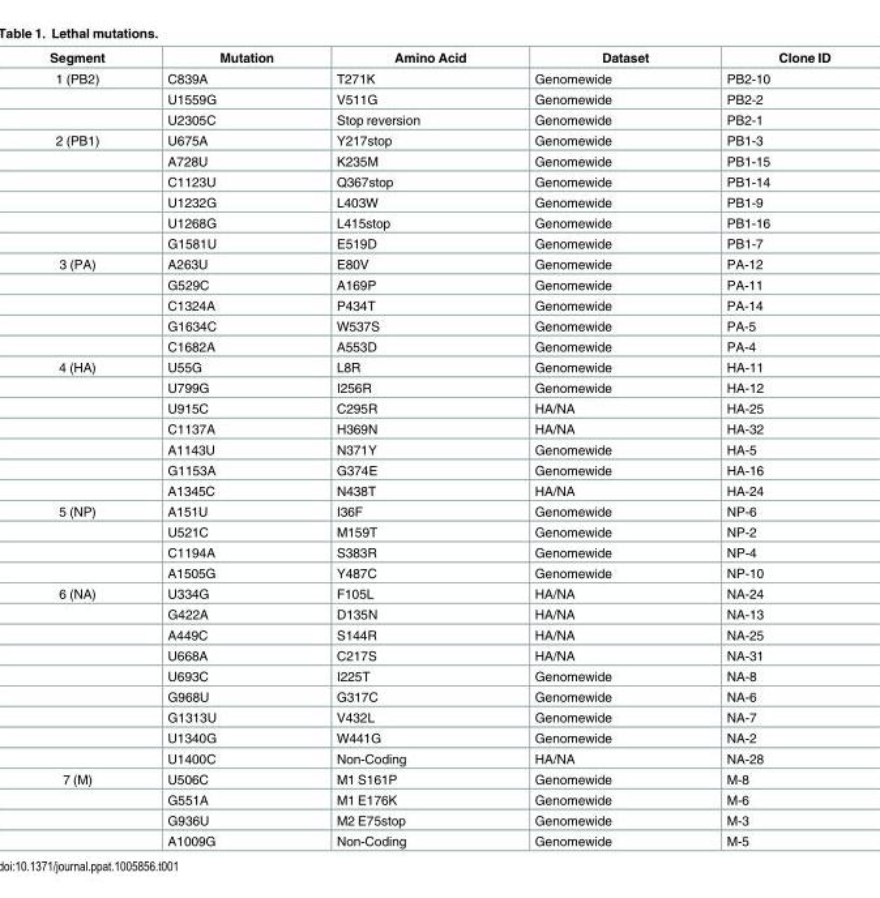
<table><thead><tr><td>Segment</td><td>Mutation</td><td>Amino Acid</td><td>Dataset</td><td>Clone ID</td></tr></thead><tbody><tr><td rowspan="3">1 (PB2)</td><td>C839A</td><td>T271K</td><td>Genomewide</td><td>PB2-10</td></tr><tr><td>U1559G</td><td>V511G</td><td>Genomewide</td><td>PB2-2</td></tr><tr><td>U2305C</td><td>Stop reversion</td><td>Genomewide</td><td>PB2-1</td></tr><tr><td rowspan="6">2 (PB1)</td><td>U675A</td><td>Y217stop</td><td>Genomewide</td><td>PB1-3</td></tr><tr><td>A728U</td><td>K235M</td><td>Genomewide</td><td>PB1-15</td></tr><tr><td>C1123U</td><td>Q367stop</td><td>Genomewide</td><td>PB1-14</td></tr><tr><td>U1232G</td><td>L403W</td><td>Genomewide</td><td>PB1-9</td></tr><tr><td>U1268G</td><td>L415stop</td><td>Genomewide</td><td>PB1-16</td></tr><tr><td>G1581U</td><td>E519D</td><td>Genomewide</td><td>PB1-7</td></tr><tr><td rowspan="5">3 (PA)</td><td>A263U</td><td>E80V</td><td>Genomewide</td><td>PA-12</td></tr><tr><td>G529C</td><td>A169P</td><td>Genomewide</td><td>PA-11</td></tr><tr><td>C1324A</td><td>P434T</td><td>Genomewide</td><td>PA-14</td></tr><tr><td>G1634C</td><td>W537S</td><td>Genomewide</td><td>PA-5</td></tr><tr><td>C1682A</td><td>A553D</td><td>Genomewide</td><td>PA-4</td></tr><tr><td rowspan="7">4 (HA)</td><td>U55G</td><td>L8R</td><td>Genomewide</td><td>HA-11</td></tr><tr><td>U799G</td><td>I256R</td><td>Genomewide</td><td>HA-12</td></tr><tr><td>U915C</td><td>C295R</td><td>HA/NA</td><td>HA-25</td></tr><tr><td>C1137A</td><td>H369N</td><td>HA/NA</td><td>HA-32</td></tr><tr><td>A1143U</td><td>N371Y</td><td>Genomewide</td><td>HA-5</td></tr><tr><td>G1153A</td><td>G374E</td><td>Genomewide</td><td>HA-16</td></tr><tr><td>A1345C</td><td>N438T</td><td>HA/NA</td><td>HA-24</td></tr><tr><td rowspan="4">5 (NP)</td><td>A151U</td><td>I36F</td><td>Genomewide</td><td>NP-6</td></tr><tr><td>U521C</td><td>M159T</td><td>Genomewide</td><td>NP-2</td></tr><tr><td>C1194A</td><td>S383R</td><td>Genomewide</td><td>NP-4</td></tr><tr><td>A1505G</td><td>Y487C</td><td>Genomewide</td><td>NP-10</td></tr><tr><td rowspan="9">6 (NA)</td><td>U334G</td><td>F105L</td><td>HA/NA</td><td>NA-24</td></tr><tr><td>G422A</td><td>D135N</td><td>HA/NA</td><td>NA-13</td></tr><tr><td>A449C</td><td>S144R</td><td>HA/NA</td><td>NA-25</td></tr><tr><td>U668A</td><td>C217S</td><td>HA/NA</td><td>NA-31</td></tr><tr><td>U693C</td><td>I225T</td><td>Genomewide</td><td>NA-8</td></tr><tr><td>G968U</td><td>G317C</td><td>Genomewide</td><td>NA-6</td></tr><tr><td>G1313U</td><td>V432L</td><td>Genomewide</td><td>NA-7</td></tr><tr><td>U1340G</td><td>W441G</td><td>Genomewide</td><td>NA-2</td></tr><tr><td>U1400C</td><td>Non-Coding</td><td>HA/NA</td><td>NA-28</td></tr><tr><td rowspan="4">7 (M)</td><td>U506C</td><td>M1 S161P</td><td>Genomewide</td><td>M-8</td></tr><tr><td>G551A</td><td>M1 E176K</td><td>Genomewide</td><td>M-6</td></tr><tr><td>G936U</td><td>M2 E75stop</td><td>Genomewide</td><td>M-3</td></tr><tr><td>A1009G</td><td>Non-Coding</td><td>Genomewide</td><td>M-5</td></tr></tbody></table>